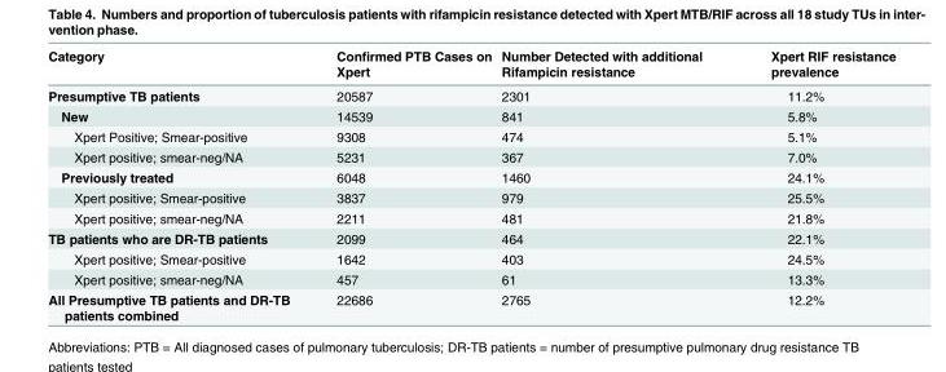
<table><thead><tr><td>Category</td><td>Confirmed PTB Cases on Xpert</td><td>Number Detected with additional Rifampicin resistance</td><td>Xpert RIF resistance prevalence</td></tr></thead><tbody><tr><td>Presumptive TB patients</td><td>20587</td><td>2301</td><td>11.2%</td></tr><tr><td>New</td><td>14539</td><td>841</td><td>5.8%</td></tr><tr><td>Xpert Positive; Smear-positive</td><td>9308</td><td>474</td><td>5.1%</td></tr><tr><td>Xpert positive; smear-neg/NA</td><td>5231</td><td>367</td><td>7.0%</td></tr><tr><td>Previously treated</td><td>6048</td><td>1460</td><td>24.1%</td></tr><tr><td>Xpert positive; Smear-positive</td><td>3837</td><td>979</td><td>25.5%</td></tr><tr><td>Xpert positive; smear-neg/NA</td><td>2211</td><td>481</td><td>21.8%</td></tr><tr><td>TB patients who are DR-TB patients</td><td>2099</td><td>464</td><td>22.1%</td></tr><tr><td>Xpert positive; Smear-positive</td><td>1642</td><td>403</td><td>24.5%</td></tr><tr><td>Xpert positive; smear-neg/NA</td><td>457</td><td>61</td><td>13.3%</td></tr><tr><td>All Presumptive TB patients and DR-TB patients combined</td><td>22686</td><td>2765</td><td>12.2%</td></tr></tbody></table>